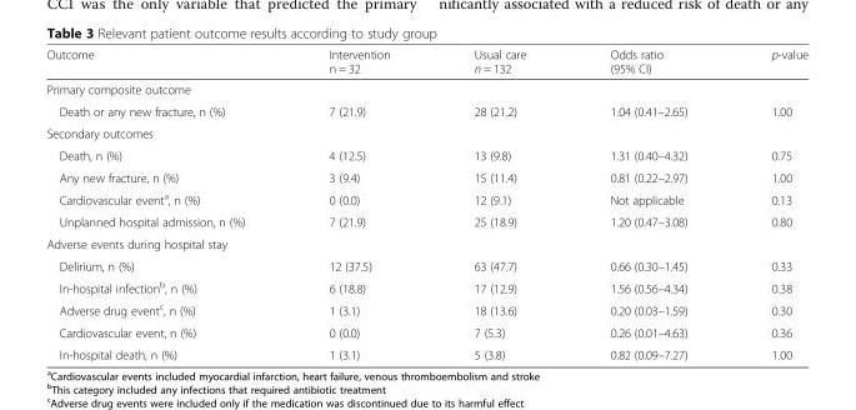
<table><thead><tr><td>Outcome</td><td>Intervention n = 32</td><td>Usual care n = 132</td><td>Odds ratio (95% CI)</td><td>p-value</td></tr></thead><tbody><tr><td colspan="5">Primary composite outcome</td></tr><tr><td>Death or any new fracture, n (%)</td><td>7 (21.9)</td><td>28 (21.2)</td><td>1.04 (0.41–2.65)</td><td>1.00</td></tr><tr><td colspan="5">Secondary outcomes</td></tr><tr><td>Death, n (%)</td><td>4 (12.5)</td><td>13 (9.8)</td><td>1.31 (0.40–4.32)</td><td>0.75</td></tr><tr><td>Any new fracture, n (%)</td><td>3 (9.4)</td><td>15 (11.4)</td><td>0.81 (0.22–2.97)</td><td>1.00</td></tr><tr><td>Cardiovascular event<sup>a</sup>, n (%)</td><td>0 (0.0)</td><td>12 (9.1)</td><td>Not applicable</td><td>0.13</td></tr><tr><td>Unplanned hospital admission, n (%)</td><td>7 (21.9)</td><td>25 (18.9)</td><td>1.20 (0.47–3.08)</td><td>0.80</td></tr><tr><td colspan="5">Adverse events during hospital stay</td></tr><tr><td>Delirium, n (%)</td><td>12 (37.5)</td><td>63 (47.7)</td><td>0.66 (0.30–1.45)</td><td>0.33</td></tr><tr><td>In-hospital infection<sup>b</sup>, n (%)</td><td>6 (18.8)</td><td>17 (12.9)</td><td>1.56 (0.56–4.34)</td><td>0.38</td></tr><tr><td>Adverse drug event<sup>c</sup>, n (%)</td><td>1 (3.1)</td><td>18 (13.6)</td><td>0.20 (0.03–1.59)</td><td>0.30</td></tr><tr><td>Cardiovascular event, n (%)</td><td>0 (0.0)</td><td>7 (5.3)</td><td>0.26 (0.01–4.63)</td><td>0.36</td></tr><tr><td>In-hospital death, n (%)</td><td>1 (3.1)</td><td>5 (3.8)</td><td>0.82 (0.09–7.27)</td><td>1.00</td></tr></tbody></table>